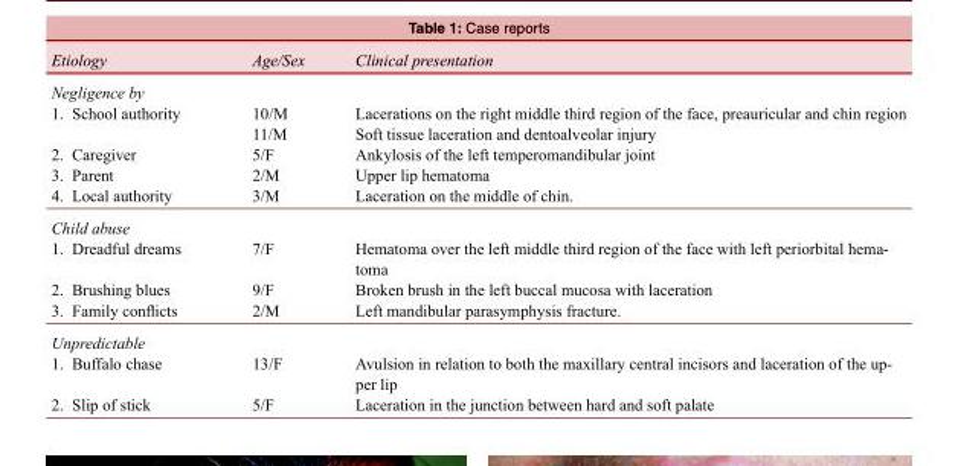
<table><tbody><tr><td>Etiology</td><td>Age/Sex</td><td>Clinical presentation</td></tr><tr><td colspan="3">Negligence by</td></tr><tr><td rowspan="2">1. School authority</td><td>10/M</td><td>Lacerations on the right middle third region of the face, preauricular and chin region</td></tr><tr><td>11/M</td><td>Soft tissue laceration and dentoalveolar injury</td></tr><tr><td>2. Caregiver</td><td>5/F</td><td>Ankylosis of the left temperomandibular joint</td></tr><tr><td>3. Parent</td><td>2/M</td><td>Upper lip hematoma</td></tr><tr><td>4. Local authority</td><td>3/M</td><td>Laceration on the middle of chin.</td></tr><tr><td colspan="3">Child abuse</td></tr><tr><td>1. Dreadful dreams</td><td>7/F</td><td>Hematoma over the left middle third region of the face with left periorbital hema- toma</td></tr><tr><td>2. Brushing blues</td><td>9/F</td><td>Broken brush in the left buccal mucosa with laceration</td></tr><tr><td>3. Family conflicts</td><td>2/M</td><td>Left mandibular parasymphysis fracture.</td></tr><tr><td colspan="3">Unpredictable</td></tr><tr><td>1. Buffalo chase</td><td>13/F</td><td>Avulsion in relation to both the maxillary central incisors and laceration of the up- per lip</td></tr><tr><td>2. Slip of stick</td><td>5/F</td><td>Laceration in the junction between hard and soft palate</td></tr></tbody></table>